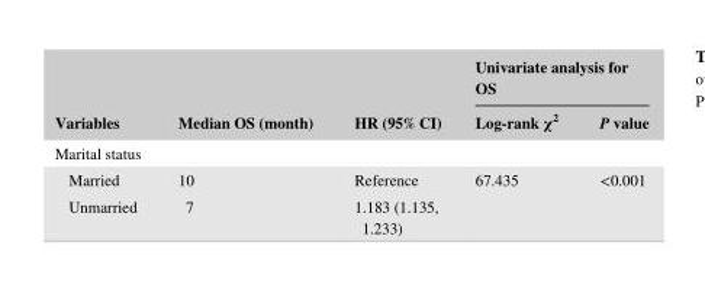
<table><thead><tr><td rowspan="2">Variables</td><td rowspan="2">Median OS (month)</td><td rowspan="2">HR (95% CI)</td><td colspan="2">Univariate analysis for OS</td></tr><tr><td>Log- rank χ<sup>2</sup></td><td>P value</td></tr></thead><tbody><tr><td colspan="5">Marital status</td></tr><tr><td>Married</td><td>10</td><td>Reference</td><td>67.435</td><td>&lt;0.001</td></tr><tr><td>Unmarried</td><td>7</td><td>1.183 (1.135, 1.233)</td><td></td><td></td></tr></tbody></table>